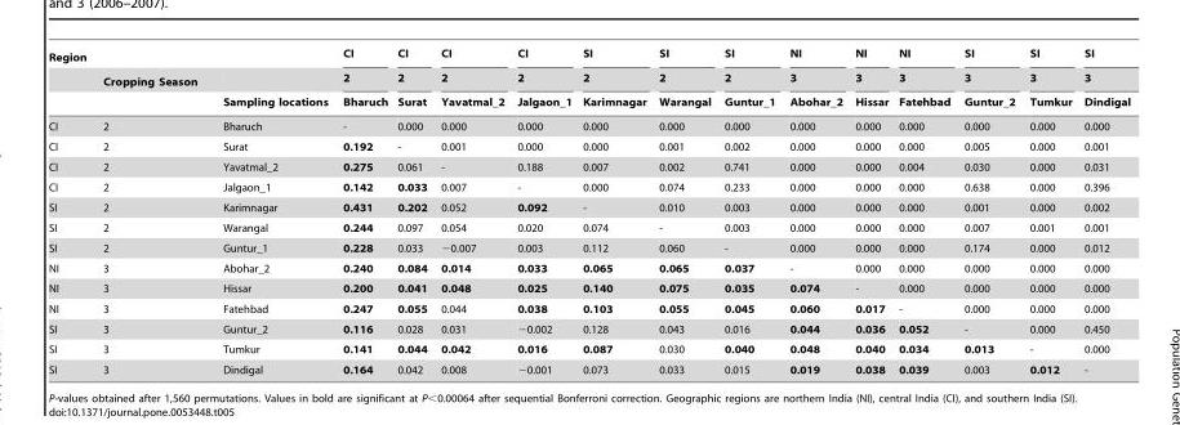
<table><thead><tr><td rowspan="3">Region</td><td rowspan="3">Cropping Season</td><td rowspan="3">Sampling locations</td><td rowspan="3">CI 2 Bharuch</td><td rowspan="3">CI 2 Surat</td><td rowspan="3">CI 2 Yavatmal_2</td><td rowspan="3">CI 2 Jalgaon_1</td><td rowspan="3">SI 2 Karimnagar</td><td rowspan="3">SI 2 Warangal</td><td rowspan="3">SI 2 Guntur_1</td><td rowspan="3">NI 3 Abohar_2</td><td rowspan="3">NI 3 Hissar</td><td rowspan="3">NI 3 Fatehbad</td><td rowspan="3">SI 3 Guntur_2</td><td rowspan="3">SI 3 Tumkur</td><td rowspan="3">SI 3 Dindigal</td></tr><tr></tr><tr></tr></thead><tbody><tr><td>CI</td><td>2</td><td>Bharuch</td><td>-</td><td>0.000</td><td>0.000</td><td>0.000</td><td>0.000</td><td>0.000</td><td>0.000</td><td>0.000</td><td>0.000</td><td>0.000</td><td>0.000</td><td>0.000</td><td>0.000</td></tr><tr><td>CI</td><td>2</td><td>Surat</td><td>0.192</td><td>-</td><td>0.001</td><td>0.000</td><td>0.000</td><td>0.001</td><td>0.002</td><td>0.000</td><td>0.000</td><td>0.000</td><td>0.005</td><td>0.000</td><td>0.001</td></tr><tr><td>CI</td><td>2</td><td>Yavatmal_2</td><td>0.275</td><td>0.061</td><td>-</td><td>0.188</td><td>0.007</td><td>0.002</td><td>0.741</td><td>0.000</td><td>0.000</td><td>0.004</td><td>0.030</td><td>0.000</td><td>0.031</td></tr><tr><td>CI</td><td>2</td><td>Jalgaon_1</td><td>0.142</td><td>0.033</td><td>0.007</td><td>-</td><td>0.000</td><td>0.074</td><td>0.233</td><td>0.000</td><td>0.000</td><td>0.000</td><td>0.638</td><td>0.000</td><td>0.396</td></tr><tr><td>SI</td><td>2</td><td>Karimnagar</td><td>0.431</td><td>0.202</td><td>0.052</td><td>0.092</td><td>-</td><td>0.010</td><td>0.003</td><td>0.000</td><td>0.000</td><td>0.000</td><td>0.001</td><td>0.000</td><td>0.002</td></tr><tr><td>SI</td><td>2</td><td>Warangal</td><td>0.244</td><td>0.097</td><td>0.054</td><td>0.020</td><td>0.074</td><td>-</td><td>0.003</td><td>0.000</td><td>0.000</td><td>0.000</td><td>0.007</td><td>0.001</td><td>0.001</td></tr><tr><td>SI</td><td>2</td><td>Guntur_1</td><td>0.228</td><td>0.033</td><td>−0.007</td><td>0.003</td><td>0.112</td><td>0.060</td><td>-</td><td>0.000</td><td>0.000</td><td>0.000</td><td>0.174</td><td>0.000</td><td>0.012</td></tr><tr><td>NI</td><td>3</td><td>Abohar_2</td><td>0.240</td><td>0.084</td><td>0.014</td><td>0.033</td><td>0.065</td><td>0.065</td><td>0.037</td><td>-</td><td>0.000</td><td>0.000</td><td>0.000</td><td>0.000</td><td>0.000</td></tr><tr><td>NI</td><td>3</td><td>Hissar</td><td>0.200</td><td>0.041</td><td>0.048</td><td>0.025</td><td>0.140</td><td>0.075</td><td>0.035</td><td>0.074</td><td>-</td><td>0.000</td><td>0.000</td><td>0.000</td><td>0.000</td></tr><tr><td>NI</td><td>3</td><td>Fatehbad</td><td>0.247</td><td>0.055</td><td>0.044</td><td>0.038</td><td>0.103</td><td>0.055</td><td>0.045</td><td>0.060</td><td>0.017</td><td>-</td><td>0.000</td><td>0.000</td><td>0.000</td></tr><tr><td>SI</td><td>3</td><td>Guntur_2</td><td>0.116</td><td>0.028</td><td>0.031</td><td>−0.002</td><td>0.128</td><td>0.043</td><td>0.016</td><td>0.044</td><td>0.036</td><td>0.052</td><td>-</td><td>0.000</td><td>0.450</td></tr><tr><td>SI</td><td>3</td><td>Tumkur</td><td>0.141</td><td>0.044</td><td>0.042</td><td>0.016</td><td>0.087</td><td>0.030</td><td>0.040</td><td>0.048</td><td>0.040</td><td>0.034</td><td>0.013</td><td>-</td><td>0.000</td></tr><tr><td>SI</td><td>3</td><td>Dindigal</td><td>0.164</td><td>0.042</td><td>0.008</td><td>−0.001</td><td>0.073</td><td>0.033</td><td>0.015</td><td>0.019</td><td>0.038</td><td>0.039</td><td>0.003</td><td>0.012</td><td>-</td></tr></tbody></table>